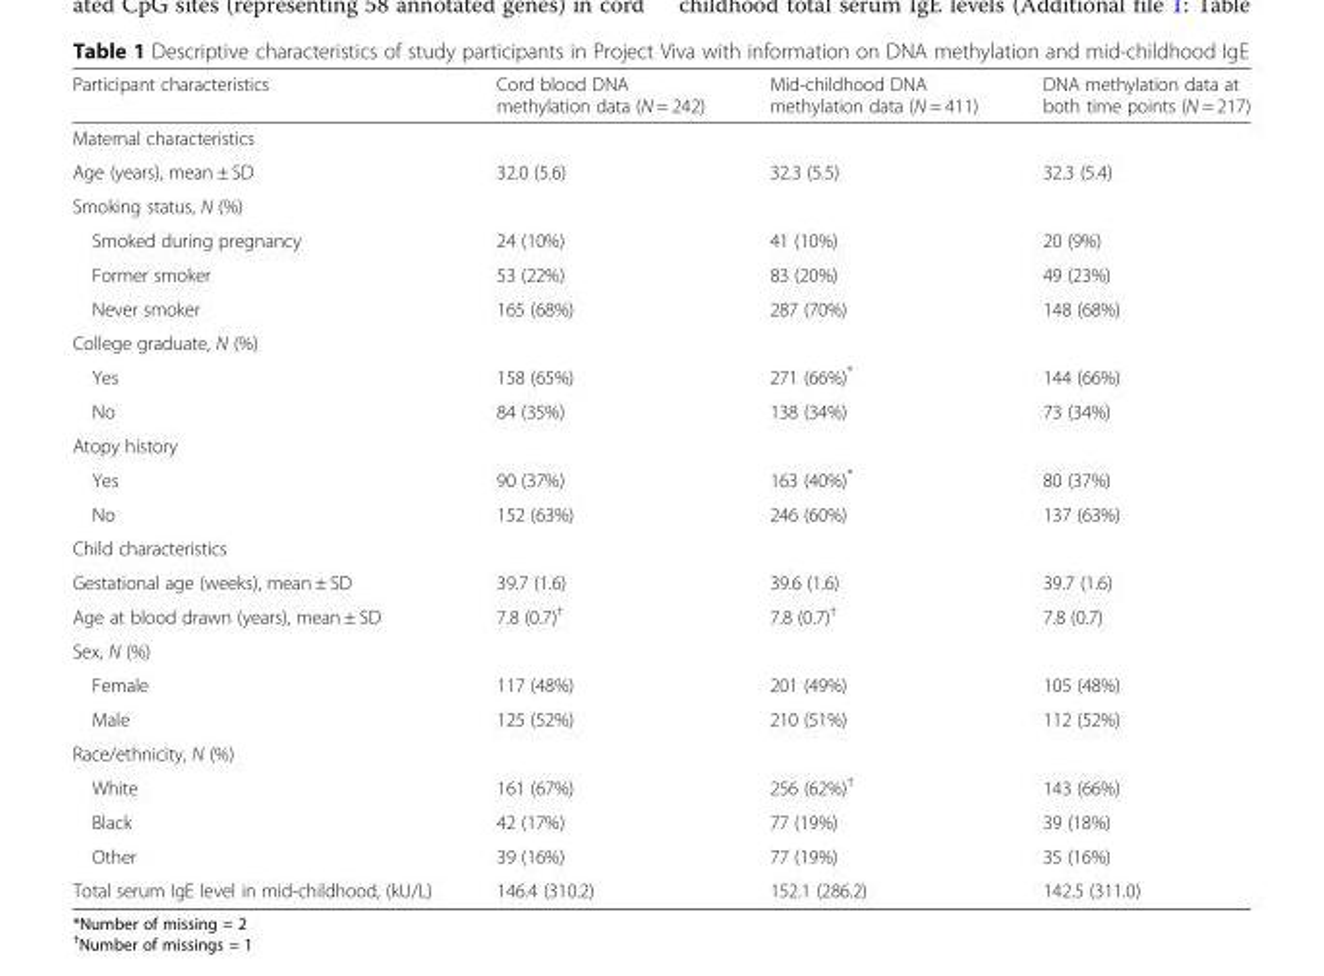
<table><thead><tr><td>Participant characteristics</td><td>Cord blood DNA methylation data (N = 242)</td><td>Mid-childhood DNA methylation data (N = 411)</td><td>DNA methylation data at both time points (N = 217)</td></tr></thead><tbody><tr><td colspan="4">Maternal characteristics</td></tr><tr><td>Age (years), mean ± SD</td><td>32.0 (5.6)</td><td>32.3 (5.5)</td><td>32.3 (5.4)</td></tr><tr><td colspan="4">Smoking status, N (%)</td></tr><tr><td>Smoked during pregnancy</td><td>24 (10%)</td><td>41 (10%)</td><td>20 (9%)</td></tr><tr><td>Former smoker</td><td>53 (22%)</td><td>83 (20%)</td><td>49 (23%)</td></tr><tr><td>Never smoker</td><td>165 (68%)</td><td>287 (70%)</td><td>148 (68%)</td></tr><tr><td colspan="4">College graduate, N (%)</td></tr><tr><td>Yes</td><td>158 (65%)</td><td>271 (66%)*</td><td>144 (66%)</td></tr><tr><td>No</td><td>84 (35%)</td><td>138 (34%)</td><td>73 (34%)</td></tr><tr><td colspan="4">Atopy history</td></tr><tr><td>Yes</td><td>90 (37%)</td><td>163 (40%)*</td><td>80 (37%)</td></tr><tr><td>No</td><td>152 (63%)</td><td>246 (60%)</td><td>137 (63%)</td></tr><tr><td colspan="4">Child characteristics</td></tr><tr><td>Gestational age (weeks), mean ± SD</td><td>39.7 (1.6)</td><td>39.6 (1.6)</td><td>39.7 (1.6)</td></tr><tr><td>Age at blood drawn (years), mean ± SD</td><td>7.8 (0.7)<sup>†</sup></td><td>7.8 (0.7)<sup>†</sup></td><td>7.8 (0.7)</td></tr><tr><td colspan="4">Sex, N (%)</td></tr><tr><td>Female</td><td>117 (48%)</td><td>201 (49%)</td><td>105 (48%)</td></tr><tr><td>Male</td><td>125 (52%)</td><td>210 (51%)</td><td>112 (52%)</td></tr><tr><td colspan="4">Race/ethnicity, N (%)</td></tr><tr><td>White</td><td>161 (67%)</td><td>256 (62%)<sup>†</sup></td><td>143 (66%)</td></tr><tr><td>Black</td><td>42 (17%)</td><td>77 (19%)</td><td>39 (18%)</td></tr><tr><td>Other</td><td>39 (16%)</td><td>77 (19%)</td><td>35 (16%)</td></tr><tr><td>Total serum IgE level in mid-childhood, (kU/L)</td><td>146.4 (310.2)</td><td>152.1 (286.2)</td><td>142.5 (311.0)</td></tr></tbody></table>